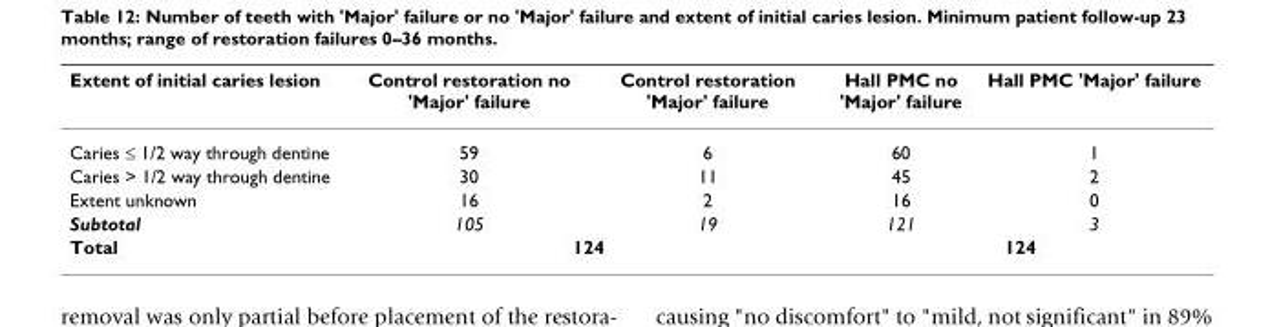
<table><thead><tr><td>Extent of initial caries lesion</td><td>Control restoration no &#x27;Major&#x27; failure</td><td>Control restoration &#x27;Major&#x27; failure</td><td>Hall PMC no &#x27;Major&#x27; failure</td><td>Hall PMC &#x27;Major&#x27; failure</td></tr></thead><tbody><tr><td>Caries ≤ 1/2 way through dentine</td><td>59</td><td>6</td><td>60</td><td>1</td></tr><tr><td>Caries &gt; 1/2 way through dentine</td><td>30</td><td>11</td><td>45</td><td>2</td></tr><tr><td>Extent unknown</td><td>16</td><td>2</td><td>16</td><td>0</td></tr><tr><td>Subtotal</td><td>105</td><td>19</td><td>121</td><td>3</td></tr><tr><td>Total</td><td colspan="2">124</td><td colspan="2">124</td></tr></tbody></table>